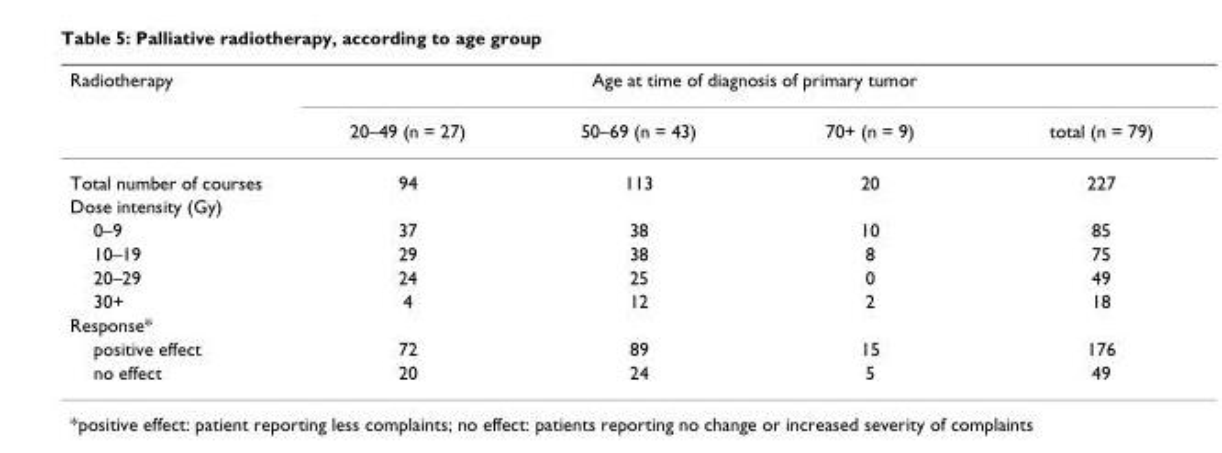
<table><thead><tr><td rowspan="2">Radiotherapy</td><td colspan="4">Age at time of diagnosis of primary tumor</td></tr><tr><td>20–49 (n = 27)</td><td>50–69 (n = 43)</td><td>70+ (n = 9)</td><td>total (n = 79)</td></tr></thead><tbody><tr><td>Total number of courses</td><td>94</td><td>113</td><td>20</td><td>227</td></tr><tr><td colspan="5">Dose intensity (Gy)</td></tr><tr><td>0–9</td><td>37</td><td>38</td><td>10</td><td>85</td></tr><tr><td>10–19</td><td>29</td><td>38</td><td>8</td><td>75</td></tr><tr><td>20–29</td><td>24</td><td>25</td><td>0</td><td>49</td></tr><tr><td>30+</td><td>4</td><td>12</td><td>2</td><td>18</td></tr><tr><td colspan="5">Response*</td></tr><tr><td>positive effect</td><td>72</td><td>89</td><td>15</td><td>176</td></tr><tr><td>no effect</td><td>20</td><td>24</td><td>5</td><td>49</td></tr></tbody></table>